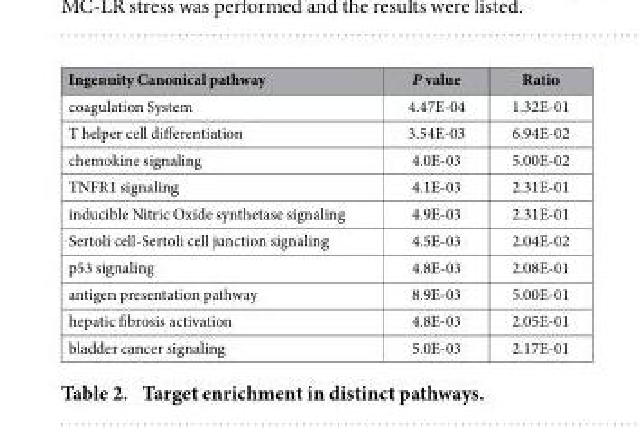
<table><thead><tr><td>Ingenuity Canonical pathway</td><td>P value</td><td>Ratio</td></tr></thead><tbody><tr><td>coagulation System</td><td>4.47E-04</td><td>1.32E-01</td></tr><tr><td>T helper cell differentiation</td><td>3.54E-03</td><td>6.94E-02</td></tr><tr><td>chemokine signaling</td><td>4.0E-03</td><td>5.00E-02</td></tr><tr><td>TNFR1 signaling</td><td>4.1E-03</td><td>2.31E-01</td></tr><tr><td>inducible Nitric Oxide synthetase signaling</td><td>4.9E-03</td><td>2.31E-01</td></tr><tr><td>Sertoli cell-Sertoli cell junction signaling</td><td>4.5E-03</td><td>2.04E-02</td></tr><tr><td>p53 signaling</td><td>4.8E-03</td><td>2.08E-01</td></tr><tr><td>antigen presentation pathway</td><td>8.9E-03</td><td>5.00E-01</td></tr><tr><td>hepatic fibrosis activation</td><td>4.8E-03</td><td>2.05E-01</td></tr><tr><td>bladder cancer signaling</td><td>5.0E-03</td><td>2.17E-01</td></tr></tbody></table>